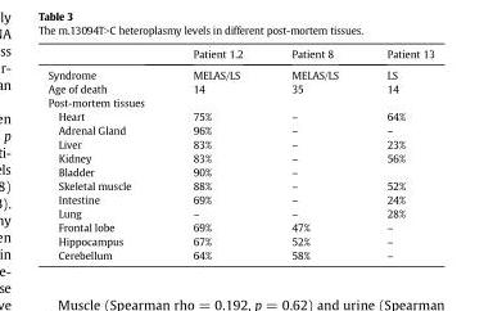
<table><thead><tr><td></td><td>Patient 1.2</td><td>Patient 8</td><td>Patient 13</td></tr></thead><tbody><tr><td>Syndrome</td><td>MELAS/LS</td><td>MELAS/LS</td><td>LS</td></tr><tr><td>Age of death</td><td>14</td><td>35</td><td>14</td></tr><tr><td colspan="4">Post-mortem tissues</td></tr><tr><td>Heart</td><td>75%</td><td>–</td><td>64%</td></tr><tr><td>Adrenal Gland</td><td>96%</td><td>–</td><td>–</td></tr><tr><td>Liver</td><td>83%</td><td>–</td><td>23%</td></tr><tr><td>Kidney</td><td>83%</td><td>–</td><td>56%</td></tr><tr><td>Bladder</td><td>90%</td><td>–</td><td></td></tr><tr><td>Skeletal muscle</td><td>88%</td><td>–</td><td>52%</td></tr><tr><td>Intestine</td><td>69%</td><td>–</td><td>24%</td></tr><tr><td>Lung</td><td>–</td><td>–</td><td>28%</td></tr><tr><td>Frontal lobe</td><td>69%</td><td>47%</td><td>–</td></tr><tr><td>Hippocampus</td><td>67%</td><td>52%</td><td>–</td></tr><tr><td>Cerebellum</td><td>64%</td><td>58%</td><td>–</td></tr></tbody></table>